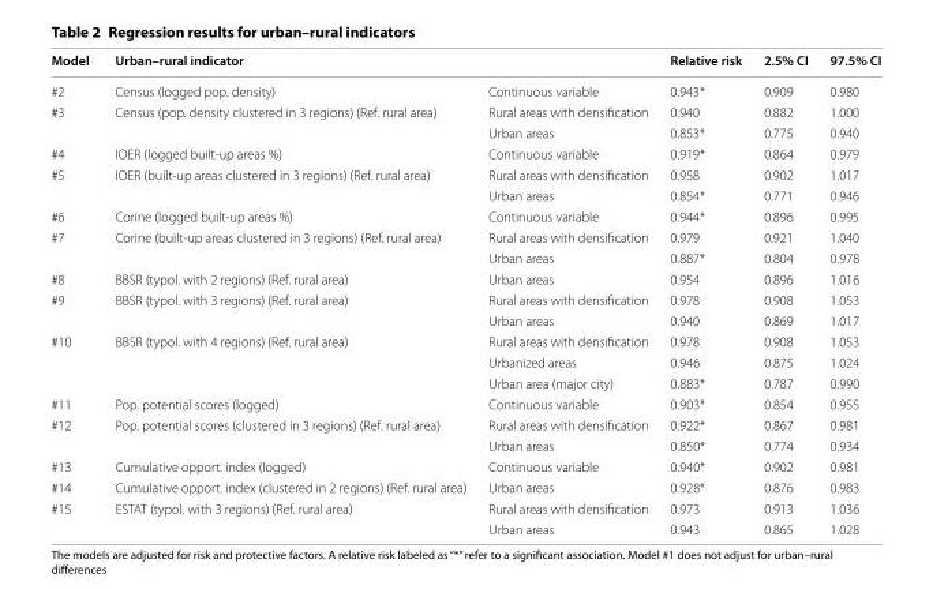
<table><thead><tr><td>Model</td><td>Urban–rural indicator</td><td></td><td>Relative risk</td><td>2.5% CI</td><td>97.5% CI</td></tr></thead><tbody><tr><td>#2</td><td>Census (logged pop. density)</td><td>Continuous variable</td><td>0.943*</td><td>0.909</td><td>0.980</td></tr><tr><td rowspan="2">#3</td><td rowspan="2">Census (pop. density clustered in 3 regions) (Ref. rural area)</td><td>Rural areas with densification</td><td>0.940</td><td>0.882</td><td>1.000</td></tr><tr><td>Urban areas</td><td>0.853*</td><td>0.775</td><td>0.940</td></tr><tr><td>#4</td><td>IOER (logged built‑up areas %)</td><td>Continuous variable</td><td>0.919*</td><td>0.864</td><td>0.979</td></tr><tr><td rowspan="2">#5</td><td rowspan="2">IOER (built‑up areas clustered in 3 regions) (Ref. rural area)</td><td>Rural areas with densification</td><td>0.958</td><td>0.902</td><td>1.017</td></tr><tr><td>Urban areas</td><td>0.854*</td><td>0.771</td><td>0.946</td></tr><tr><td>#6</td><td>Corine (logged built‑up areas %)</td><td>Continuous variable</td><td>0.944*</td><td>0.896</td><td>0.995</td></tr><tr><td rowspan="2">#7</td><td rowspan="2">Corine (built‑up areas clustered in 3 regions) (Ref. rural area)</td><td>Rural areas with densification</td><td>0.979</td><td>0.921</td><td>1.040</td></tr><tr><td>Urban areas</td><td>0.887*</td><td>0.804</td><td>0.978</td></tr><tr><td>#8</td><td>BBSR (typol. with 2 regions) (Ref. rural area)</td><td>Urban areas</td><td>0.954</td><td>0.896</td><td>1.016</td></tr><tr><td rowspan="2">#9</td><td rowspan="2">BBSR (typol. with 3 regions) (Ref. rural area)</td><td>Rural areas with densification</td><td>0.978</td><td>0.908</td><td>1.053</td></tr><tr><td>Urban areas</td><td>0.940</td><td>0.869</td><td>1.017</td></tr><tr><td rowspan="3">#10</td><td rowspan="3">BBSR (typol. with 4 regions) (Ref. rural area)</td><td>Rural areas with densification</td><td>0.978</td><td>0.908</td><td>1.053</td></tr><tr><td>Urbanized areas</td><td>0.946</td><td>0.875</td><td>1.024</td></tr><tr><td>Urban area (major city)</td><td>0.883*</td><td>0.787</td><td>0.990</td></tr><tr><td>#11</td><td>Pop. potential scores (logged)</td><td>Continuous variable</td><td>0.903*</td><td>0.854</td><td>0.955</td></tr><tr><td rowspan="2">#12</td><td rowspan="2">Pop. potential scores (clustered in 3 regions) (Ref. rural area)</td><td>Rural areas with densification</td><td>0.922*</td><td>0.867</td><td>0.981</td></tr><tr><td>Urban areas</td><td>0.850*</td><td>0.774</td><td>0.934</td></tr><tr><td>#13</td><td>Cumulative opport. index (logged)</td><td>Continuous variable</td><td>0.940*</td><td>0.902</td><td>0.981</td></tr><tr><td>#14</td><td>Cumulative opport. index (clustered in 2 regions) (Ref. rural area)</td><td>Urban areas</td><td>0.928*</td><td>0.876</td><td>0.983</td></tr><tr><td rowspan="2">#15</td><td rowspan="2">ESTAT (typol. with 3 regions) (Ref. rural area)</td><td>Rural areas with densification</td><td>0.973</td><td>0.913</td><td>1.036</td></tr><tr><td>Urban areas</td><td>0.943</td><td>0.865</td><td>1.028</td></tr></tbody></table>